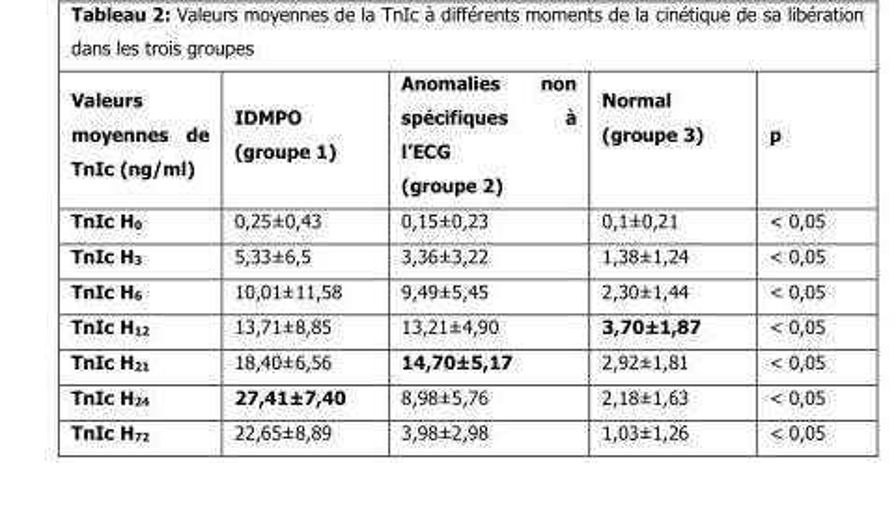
<table><thead><tr><td>Valeurs moyennes de TnIc (ng/ml)</td><td>IDMPO (groupe 1)</td><td>Anomalies non spécifiques à l’ECG (groupe 2)</td><td>Normal (groupe 3)</td><td>p</td></tr></thead><tbody><tr><td>TnIc H<sub>0</sub></td><td>0,25±0,43</td><td>0,15±0,23</td><td>0,1±0,21</td><td>&lt; 0,05</td></tr><tr><td>TnIc H<sub>3</sub></td><td>5,33±6,5</td><td>3,36±3,22</td><td>1,38±1,24</td><td>&lt; 0,05</td></tr><tr><td>TnIc H<sub>6</sub></td><td>10,01±11,58</td><td>9,49±5,45</td><td>2,30±1,44</td><td>&lt; 0,05</td></tr><tr><td>TnIc H<sub>12</sub></td><td>13,71±8,85</td><td>13,21±4,90</td><td>3,70±1,87</td><td>&lt; 0,05</td></tr><tr><td>TnIc H<sub>21</sub></td><td>18,40±6,56</td><td>14,70±5,17</td><td>2,92±1,81</td><td>&lt; 0,05</td></tr><tr><td>TnIc H<sub>24</sub></td><td>27,41±7,40</td><td>8,98±5,76</td><td>2,18±1,63</td><td>&lt; 0,05</td></tr><tr><td>TnIc H<sub>72</sub></td><td>22,65±8,89</td><td>3,98±2,98</td><td>1,03±1,26</td><td>&lt; 0,05</td></tr></tbody></table>